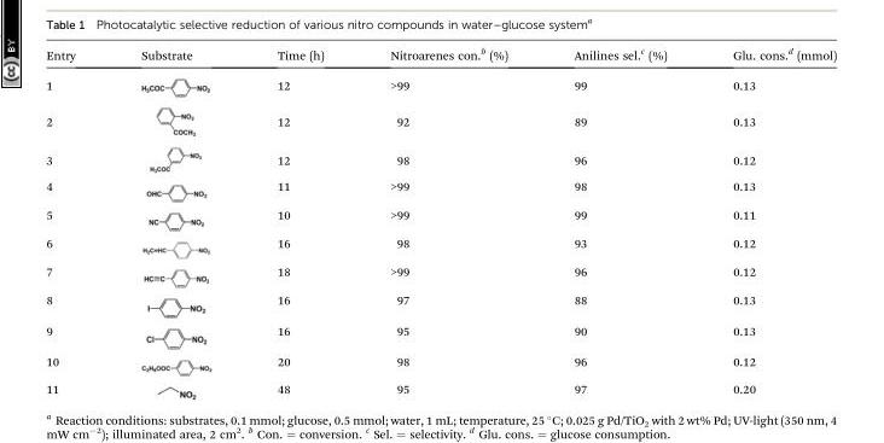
<table><thead><tr><td>Entry</td><td>Substrate</td><td>Time (h)</td><td>Nitroarenes con.<sup>b</sup> (%)</td><td>Anilines sel.<sup>c</sup> (%)</td><td>Glu. cons.<sup>d</sup> (mmol)</td></tr></thead><tbody><tr><td>1</td><td></td><td>12</td><td>&gt;99</td><td>99</td><td>0.13</td></tr><tr><td>2</td><td></td><td>12</td><td>92</td><td>89</td><td>0.13</td></tr><tr><td>3</td><td></td><td>12</td><td>98</td><td>96</td><td>0.12</td></tr><tr><td>4</td><td></td><td>11</td><td>&gt;99</td><td>98</td><td>0.13</td></tr><tr><td>5</td><td></td><td>10</td><td>&gt;99</td><td>99</td><td>0.11</td></tr><tr><td>6</td><td></td><td>16</td><td>98</td><td>93</td><td>0.12</td></tr><tr><td>7</td><td></td><td>18</td><td>&gt;99</td><td>96</td><td>0.12</td></tr><tr><td>8</td><td></td><td>16</td><td>97</td><td>88</td><td>0.13</td></tr><tr><td>9</td><td></td><td>16</td><td>95</td><td>90</td><td>0.13</td></tr><tr><td>10</td><td></td><td>20</td><td>98</td><td>96</td><td>0.12</td></tr><tr><td>11</td><td></td><td>48</td><td>95</td><td>97</td><td>0.20</td></tr></tbody></table>